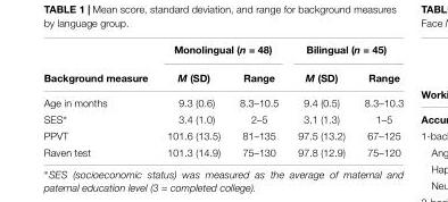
<table><thead><tr><td rowspan="2">Background measure</td><td colspan="2">Monolingual (n = 48)</td><td colspan="2">Bilingual (n = 45)</td></tr><tr><td>M (SD)</td><td>Range</td><td>M (SD)</td><td>Range</td></tr></thead><tbody><tr><td>Age in months</td><td>9.3 (0.6)</td><td>8.3–10.5</td><td>9.4 (0.5)</td><td>8.3–10.3</td></tr><tr><td>SES∗</td><td>3.4 (1.0)</td><td>2–5</td><td>3.1 (1.3)</td><td>1–5</td></tr><tr><td>PPVT</td><td>101.6 (13.5)</td><td>81–135</td><td>97.5 (13.2)</td><td>67–125</td></tr><tr><td>Raven test</td><td>101.3 (14.9)</td><td>75–130</td><td>97.8 (12.9)</td><td>75–120</td></tr></tbody></table>